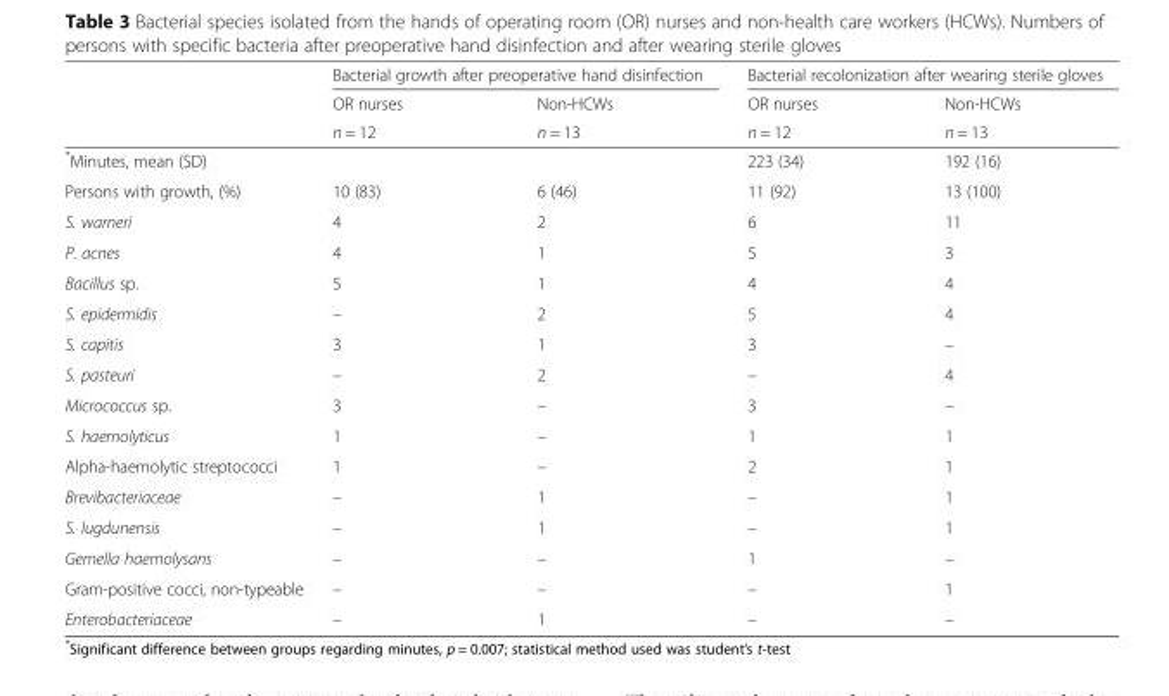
<table><thead><tr><td rowspan="3"></td><td colspan="2">Bacterial growth after preoperative hand disinfection</td><td colspan="2">Bacterial recolonization after wearing sterile gloves</td></tr><tr><td rowspan="2">OR nurses n = 12</td><td rowspan="2">Non-HCWs n = 13</td><td rowspan="2">OR nurses n = 12</td><td rowspan="2">Non-HCWs n = 13</td></tr><tr></tr></thead><tbody><tr><td>*Minutes, mean (SD)</td><td></td><td></td><td>223 (34)</td><td>192 (16)</td></tr><tr><td>Persons with growth, (%)</td><td>10 (83)</td><td>6 (46)</td><td>11 (92)</td><td>13 (100)</td></tr><tr><td>S. warneri</td><td>4</td><td>2</td><td>6</td><td>11</td></tr><tr><td>P. acnes</td><td>4</td><td>1</td><td>5</td><td>3</td></tr><tr><td>Bacillus sp.</td><td>5</td><td>1</td><td>4</td><td>4</td></tr><tr><td>S. epidermidis</td><td>–</td><td>2</td><td>5</td><td>4</td></tr><tr><td>S. capitis</td><td>3</td><td>1</td><td>3</td><td>–</td></tr><tr><td>S. pasteuri</td><td>–</td><td>2</td><td>–</td><td>4</td></tr><tr><td>Micrococcus sp.</td><td>3</td><td>–</td><td>3</td><td>–</td></tr><tr><td>S. haemolyticus</td><td>1</td><td>–</td><td>1</td><td>1</td></tr><tr><td>Alpha-haemolytic streptococci</td><td>1</td><td>–</td><td>2</td><td>1</td></tr><tr><td>Brevibacteriaceae</td><td>–</td><td>1</td><td>–</td><td>1</td></tr><tr><td>S. lugdunensis</td><td>–</td><td>1</td><td>–</td><td>1</td></tr><tr><td>Gemella haemolysans</td><td>–</td><td>–</td><td>1</td><td>–</td></tr><tr><td>Gram-positive cocci, non-typeable</td><td>–</td><td>–</td><td>–</td><td>1</td></tr><tr><td>Enterobacteriaceae</td><td>–</td><td>1</td><td>–</td><td>–</td></tr></tbody></table>